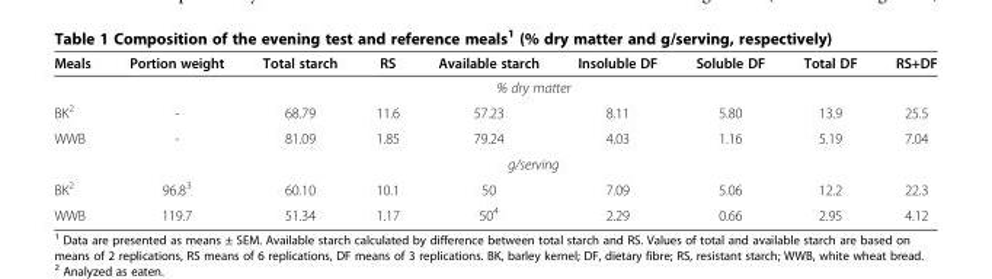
<table><thead><tr><td>Meals</td><td>Portion weight</td><td>Total starch</td><td>RS</td><td>Available starch</td><td>Insoluble DF</td><td>Soluble DF</td><td>Total DF</td><td>RS+DF</td></tr></thead><tbody><tr><td></td><td colspan="8">% dry matter</td></tr><tr><td>BK<sup>2</sup></td><td>-</td><td>68.79</td><td>11.6</td><td>57.23</td><td>8.11</td><td>5.80</td><td>13.9</td><td>25.5</td></tr><tr><td rowspan="2">WWB</td><td>-</td><td>81.09</td><td>1.85</td><td>79.24</td><td>4.03</td><td>1.16</td><td>5.19</td><td>7.04</td></tr><tr><td colspan="8">g/serving</td></tr><tr><td>BK<sup>2</sup></td><td>96.8<sup>3</sup></td><td>60.10</td><td>10.1</td><td>50</td><td>7.09</td><td>5.06</td><td>12.2</td><td>22.3</td></tr><tr><td>WWB</td><td>119.7</td><td>51.34</td><td>1.17</td><td>50<sup>4</sup></td><td>2.29</td><td>0.66</td><td>2.95</td><td>4.12</td></tr></tbody></table>